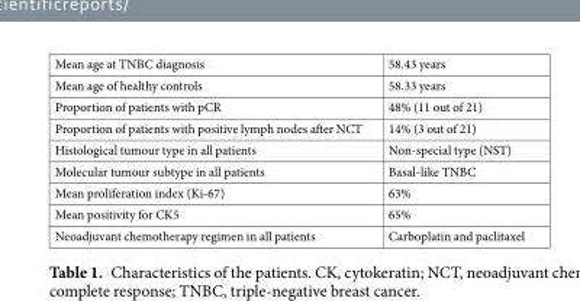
<table><tbody><tr><td>Mean age at TNBC diagnosis</td><td>58.43 years</td></tr><tr><td>Mean age of healthy controls</td><td>58.33 years</td></tr><tr><td>Proportion of patients with pCR</td><td>48% (11 out of 21)</td></tr><tr><td>Proportion of patients with positive lymph nodes after NCT</td><td>14% (3 out of 21)</td></tr><tr><td>Histological tumour type in all patients</td><td>Non-special type (NST)</td></tr><tr><td>Molecular tumour subtype in all patients</td><td>Basal-like TNBC</td></tr><tr><td>Mean proliferation index (Ki-67)</td><td>63%</td></tr><tr><td>Mean positivity for CK5</td><td>65%</td></tr><tr><td>Neoadjuvant chemotherapy regimen in all patients</td><td>Carboplatin and paclitaxel</td></tr></tbody></table>